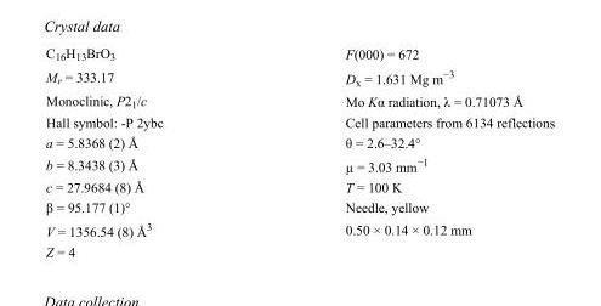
<table><tbody><tr><td>C<sub>16</sub>H<sub>13</sub>BrO<sub>3</sub></td><td>F(000) = 672</td></tr><tr><td>M<sub>r</sub> = 333.17</td><td>D<sub>x</sub> = 1.631 Mg m<sup>−3</sup></td></tr><tr><td>Monoclinic, P2<sub>1</sub>/c</td><td>Mo Kα radiation, λ = 0.71073 Å</td></tr><tr><td>Hall symbol: -P 2ybc</td><td>Cell parameters from 6134 reflections</td></tr><tr><td>a = 5.8368 (2) Å</td><td>θ = 2.6–32.4°</td></tr><tr><td>b = 8.3438 (3) Å</td><td>µ = 3.03 mm<sup>−1</sup></td></tr><tr><td>c = 27.9684 (8) Å</td><td>T = 100 K</td></tr><tr><td>β = 95.177 (1)°</td><td>Needle, yellow</td></tr><tr><td>V = 1356.54 (8) Å<sup>3</sup></td><td>0.50 × 0.14 × 0.12 mm</td></tr><tr><td>Z = 4</td><td></td></tr></tbody></table>